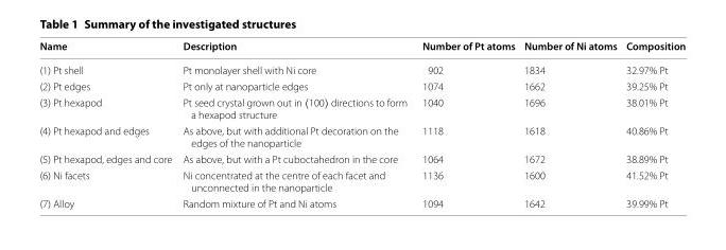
<table><thead><tr><td>Name</td><td>Description</td><td>Number of Pt atoms</td><td>Number of Ni atoms</td><td>Composition</td></tr></thead><tbody><tr><td>(1) Pt shell</td><td>Pt monolayer shell with Ni core</td><td>902</td><td>1834</td><td>32.97% Pt</td></tr><tr><td>(2) Pt edges</td><td>Pt only at nanoparticle edges</td><td>1074</td><td>1662</td><td>39.25% Pt</td></tr><tr><td>(3) Pt hexapod</td><td>Pt seed crystal grown out in ⟨100⟩ directions to form a hexapod structure</td><td>1040</td><td>1696</td><td>38.01% Pt</td></tr><tr><td>(4) Pt hexapod and edges</td><td>As above, but with additional Pt decoration on the edges of the nanoparticle</td><td>1118</td><td>1618</td><td>40.86% Pt</td></tr><tr><td>(5) Pt hexapod, edges and core</td><td>As above, but with a Pt cuboctahedron in the core</td><td>1064</td><td>1672</td><td>38.89% Pt</td></tr><tr><td>(6) Ni facets</td><td>Ni concentrated at the centre of each facet and unconnected in the nanoparticle</td><td>1136</td><td>1600</td><td>41.52% Pt</td></tr><tr><td>(7) Alloy</td><td>Random mixture of Pt and Ni atoms</td><td>1094</td><td>1642</td><td>39.99% Pt</td></tr></tbody></table>